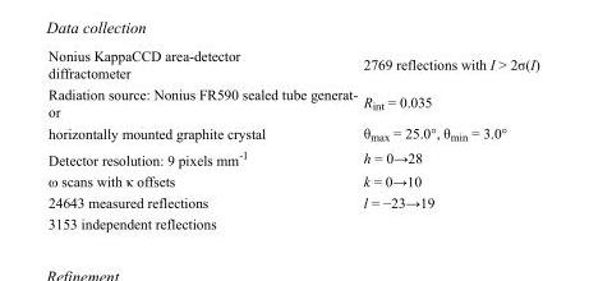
<table><tbody><tr><td>Nonius KappaCCD area-detector diffractometer</td><td>2769 reflections with I &gt; 2σ(I)</td></tr><tr><td>Radiation source: Nonius FR590 sealed tube generat- or</td><td>R<sub>int</sub> = 0.035</td></tr><tr><td>horizontally mounted graphite crystal</td><td>θ<sub>max</sub> = 25.0°, θ<sub>min</sub> = 3.0°</td></tr><tr><td>Detector resolution: 9 pixels mm<sup>-1</sup></td><td>h = 0→28</td></tr><tr><td>ω scans with κ offsets</td><td>k = 0→10</td></tr><tr><td>24643 measured reflections</td><td>l = −23→19</td></tr><tr><td>3153 independent reflections</td><td></td></tr></tbody></table>